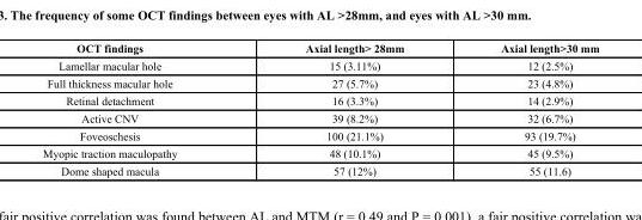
<table><thead><tr><td>OCT findings</td><td>Axial length&gt; 28mm</td><td>Axial length&gt;30 mm</td></tr></thead><tbody><tr><td>Lamellar macular hole</td><td>15 (3.11%)</td><td>12 (2.5%)</td></tr><tr><td>Full thickness macular hole</td><td>27 (5.7%)</td><td>23 (4.8%)</td></tr><tr><td>Retinal detachment</td><td>16 (3.3%)</td><td>14 (2.9%)</td></tr><tr><td>Active CNV</td><td>39 (8.2%)</td><td>32 (6.7%)</td></tr><tr><td>Foveoschesis</td><td>100 (21.1%)</td><td>93 (19.7%)</td></tr><tr><td>Myopic traction maculopathy</td><td>48 (10.1%)</td><td>45 (9.5%)</td></tr><tr><td>Dome shaped macula</td><td>57 (12%)</td><td>55 (11.6)</td></tr></tbody></table>